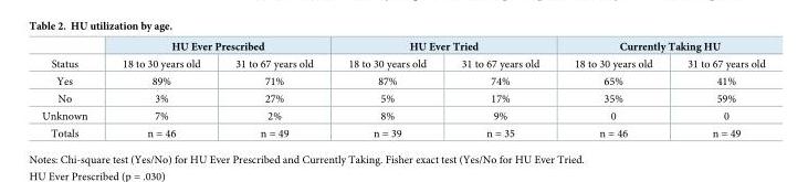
<table><thead><tr><td rowspan="2">Status</td><td colspan="2">HU Ever Prescribed</td><td colspan="2">HU Ever Tried</td><td colspan="2">Currently Taking HU</td></tr><tr><td>18 to 30 years old</td><td>31 to 67 years old</td><td>18 to 30 years old</td><td>31 to 67 years old</td><td>18 to 30 years old</td><td>31 to 67 years old</td></tr></thead><tbody><tr><td>Yes</td><td>89%</td><td>71%</td><td>87%</td><td>74%</td><td>65%</td><td>41%</td></tr><tr><td>No</td><td>3%</td><td>27%</td><td>5%</td><td>17%</td><td>35%</td><td>59%</td></tr><tr><td>Unknown</td><td>7%</td><td>2%</td><td>8%</td><td>9%</td><td>0</td><td>0</td></tr><tr><td>Totals</td><td>n = 46</td><td>n = 49</td><td>n = 39</td><td>n = 35</td><td>n = 46</td><td>n = 49</td></tr></tbody></table>